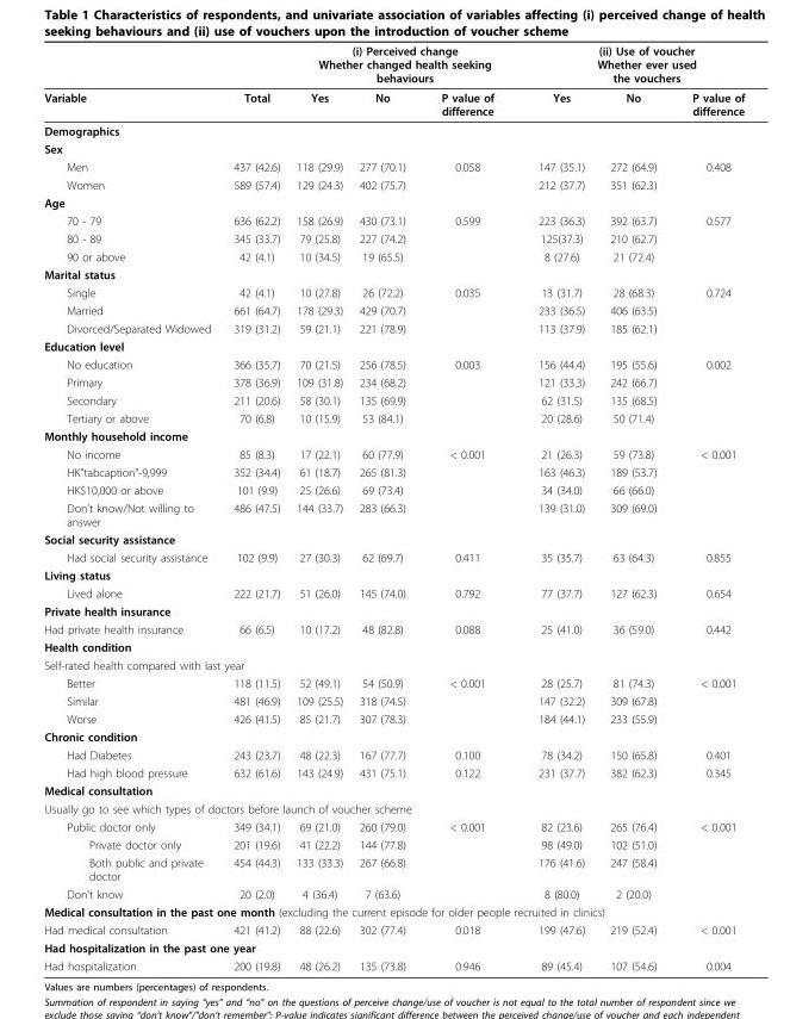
<table><thead><tr><td rowspan="2">Variable</td><td rowspan="2">Total</td><td colspan="3">(i) Perceived change Whether changed health seeking behaviours</td><td colspan="3">(ii) Use of voucher Whether ever used the vouchers</td></tr><tr><td>Yes</td><td>No</td><td>P value of difference</td><td>Yes</td><td>No</td><td>P value of difference</td></tr></thead><tbody><tr><td colspan="8">Demographics</td></tr><tr><td colspan="8">Sex</td></tr><tr><td>Men</td><td>437 (42.6)</td><td>118 (29.9)</td><td>277 (70.1)</td><td>0.058</td><td>147 (35.1)</td><td>272 (64.9)</td><td>0.408</td></tr><tr><td>Women</td><td>589 (57.4)</td><td>129 (24.3)</td><td>402 (75.7)</td><td></td><td>212 (37.7)</td><td>351 (62.3)</td><td></td></tr><tr><td colspan="8">Age</td></tr><tr><td>70 - 79</td><td>636 (62.2)</td><td>158 (26.9)</td><td>430 (73.1)</td><td>0.599</td><td>223 (36.3)</td><td>392 (63.7)</td><td>0.577</td></tr><tr><td>80 - 89</td><td>345 (33.7)</td><td>79 (25.8)</td><td>227 (74.2)</td><td></td><td>125(37.3)</td><td>210 (62.7)</td><td></td></tr><tr><td>90 or above</td><td>42 (4.1)</td><td>10 (34.5)</td><td>19 (65.5)</td><td></td><td>8 (27.6)</td><td>21 (72.4)</td><td></td></tr><tr><td colspan="8">Marital status</td></tr><tr><td>Single</td><td>42 (4.1)</td><td>10 (27.8)</td><td>26 (72.2)</td><td>0.035</td><td>13 (31.7)</td><td>28 (68.3)</td><td>0.724</td></tr><tr><td>Married</td><td>661 (64.7)</td><td>178 (29.3)</td><td>429 (70.7)</td><td></td><td>233 (36.5)</td><td>406 (63.5)</td><td></td></tr><tr><td>Divorced/Separated Widowed</td><td>319 (31.2)</td><td>59 (21.1)</td><td>221 (78.9)</td><td></td><td>113 (37.9)</td><td>185 (62.1)</td><td></td></tr><tr><td colspan="8">Education level</td></tr><tr><td>No education</td><td>366 (35.7)</td><td>70 (21.5)</td><td>256 (78.5)</td><td>0.003</td><td>156 (44.4)</td><td>195 (55.6)</td><td>0.002</td></tr><tr><td>Primary</td><td>378 (36.9)</td><td>109 (31.8)</td><td>234 (68.2)</td><td></td><td>121 (33.3)</td><td>242 (66.7)</td><td></td></tr><tr><td>Secondary</td><td>211 (20.6)</td><td>58 (30.1)</td><td>135 (69.9)</td><td></td><td>62 (31.5)</td><td>135 (68.5)</td><td></td></tr><tr><td>Tertiary or above</td><td>70 (6.8)</td><td>10 (15.9)</td><td>53 (84.1)</td><td></td><td>20 (28.6)</td><td>50 (71.4)</td><td></td></tr><tr><td colspan="8">Monthly household income</td></tr><tr><td>No income</td><td>85 (8.3)</td><td>17 (22.1)</td><td>60 (77.9)</td><td>&lt; 0.001</td><td>21 (26.3)</td><td>59 (73.8)</td><td>&lt; 0.001</td></tr><tr><td>HK&quot;tabcaption&quot;-9,999</td><td>352 (34.4)</td><td>61 (18.7)</td><td>265 (81.3)</td><td></td><td>163 (46.3)</td><td>189 (53.7)</td><td></td></tr><tr><td>HK$10,000 or above</td><td>101 (9.9)</td><td>25 (26.6)</td><td>69 (73.4)</td><td></td><td>34 (34.0)</td><td>66 (66.0)</td><td></td></tr><tr><td>Don’t know/Not willing to answer</td><td>486 (47.5)</td><td>144 (33.7)</td><td>283 (66.3)</td><td></td><td>139 (31.0)</td><td>309 (69.0)</td><td></td></tr><tr><td colspan="8">Social security assistance</td></tr><tr><td>Had social security assistance</td><td>102 (9.9)</td><td>27 (30.3)</td><td>62 (69.7)</td><td>0.411</td><td>35 (35.7)</td><td>63 (64.3)</td><td>0.855</td></tr><tr><td colspan="8">Living status</td></tr><tr><td>Lived alone</td><td>222 (21.7)</td><td>51 (26.0)</td><td>145 (74.0)</td><td>0.792</td><td>77 (37.7)</td><td>127 (62.3)</td><td>0.654</td></tr><tr><td colspan="8">Private health insurance</td></tr><tr><td>Had private health insurance</td><td>66 (6.5)</td><td>10 (17.2)</td><td>48 (82.8)</td><td>0.088</td><td>25 (41.0)</td><td>36 (59.0)</td><td>0.442</td></tr><tr><td colspan="8">Health condition</td></tr><tr><td colspan="8">Self-rated health compared with last year</td></tr><tr><td>Better</td><td>118 (11.5)</td><td>52 (49.1)</td><td>54 (50.9)</td><td>&lt; 0.001</td><td>28 (25.7)</td><td>81 (74.3)</td><td>&lt; 0.001</td></tr><tr><td>Similar</td><td>481 (46.9)</td><td>109 (25.5)</td><td>318 (74.5)</td><td></td><td>147 (32.2)</td><td>309 (67.8)</td><td></td></tr><tr><td>Worse</td><td>426 (41.5)</td><td>85 (21.7)</td><td>307 (78.3)</td><td></td><td>184 (44.1)</td><td>233 (55.9)</td><td></td></tr><tr><td colspan="8">Chronic condition</td></tr><tr><td>Had Diabetes</td><td>243 (23.7)</td><td>48 (22.3)</td><td>167 (77.7)</td><td>0.100</td><td>78 (34.2)</td><td>150 (65.8)</td><td>0.401</td></tr><tr><td>Had high blood pressure</td><td>632 (61.6)</td><td>143 (24.9)</td><td>431 (75.1)</td><td>0.122</td><td>231 (37.7)</td><td>382 (62.3)</td><td>0.345</td></tr><tr><td colspan="8">Medical consultation</td></tr><tr><td colspan="8">Usually go to see which types of doctors before launch of voucher scheme</td></tr><tr><td>Public doctor only</td><td>349 (34.1)</td><td>69 (21.0)</td><td>260 (79.0)</td><td>&lt; 0.001</td><td>82 (23.6)</td><td>265 (76.4)</td><td>&lt; 0.001</td></tr><tr><td>Private doctor only</td><td>201 (19.6)</td><td>41 (22.2)</td><td>144 (77.8)</td><td></td><td>98 (49.0)</td><td>102 (51.0)</td><td></td></tr><tr><td>Both public and private doctor</td><td>454 (44.3)</td><td>133 (33.3)</td><td>267 (66.8)</td><td></td><td>176 (41.6)</td><td>247 (58.4)</td><td></td></tr><tr><td>Don’t know</td><td>20 (2.0)</td><td>4 (36.4)</td><td>7 (63.6)</td><td></td><td>8 (80.0)</td><td>2 (20.0)</td><td></td></tr><tr><td colspan="8">Medical consultation in the past one month (excluding the current episode for older people recruited in clinics)</td></tr><tr><td>Had medical consultation</td><td>421 (41.2)</td><td>88 (22.6)</td><td>302 (77.4)</td><td>0.018</td><td>199 (47.6)</td><td>219 (52.4)</td><td>&lt; 0.001</td></tr><tr><td colspan="8">Had hospitalization in the past one year</td></tr><tr><td>Had hospitalization</td><td>200 (19.8)</td><td>48 (26.2)</td><td>135 (73.8)</td><td>0.946</td><td>89 (45.4)</td><td>107 (54.6)</td><td>0.004</td></tr></tbody></table>